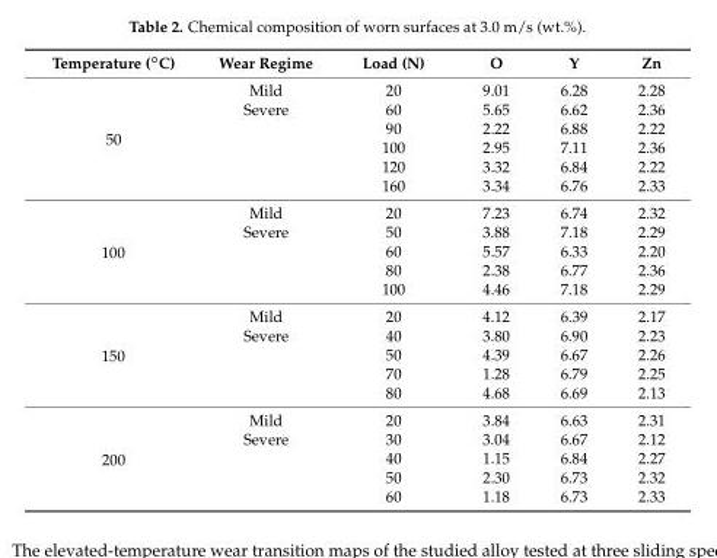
<table><thead><tr><td>Temperature (◦C)</td><td>Wear Regime</td><td>Load (N)</td><td>O</td><td>Y</td><td>Zn</td></tr></thead><tbody><tr><td rowspan="6">50</td><td>Mild</td><td>20</td><td>9.01</td><td>6.28</td><td>2.28</td></tr><tr><td>Severe</td><td>60</td><td>5.65</td><td>6.62</td><td>2.36</td></tr><tr><td></td><td>90</td><td>2.22</td><td>6.88</td><td>2.22</td></tr><tr><td></td><td>100</td><td>2.95</td><td>7.11</td><td>2.36</td></tr><tr><td></td><td>120</td><td>3.32</td><td>6.84</td><td>2.22</td></tr><tr><td></td><td>160</td><td>3.34</td><td>6.76</td><td>2.33</td></tr><tr><td rowspan="5">100</td><td>Mild</td><td>20</td><td>7.23</td><td>6.74</td><td>2.32</td></tr><tr><td>Severe</td><td>50</td><td>3.88</td><td>7.18</td><td>2.29</td></tr><tr><td></td><td>60</td><td>5.57</td><td>6.33</td><td>2.20</td></tr><tr><td></td><td>80</td><td>2.38</td><td>6.77</td><td>2.36</td></tr><tr><td></td><td>100</td><td>4.46</td><td>7.18</td><td>2.29</td></tr><tr><td rowspan="5">150</td><td>Mild</td><td>20</td><td>4.12</td><td>6.39</td><td>2.17</td></tr><tr><td>Severe</td><td>40</td><td>3.80</td><td>6.90</td><td>2.23</td></tr><tr><td></td><td>50</td><td>4.39</td><td>6.67</td><td>2.26</td></tr><tr><td></td><td>70</td><td>1.28</td><td>6.79</td><td>2.25</td></tr><tr><td></td><td>80</td><td>4.68</td><td>6.69</td><td>2.13</td></tr><tr><td rowspan="5">200</td><td>Mild</td><td>20</td><td>3.84</td><td>6.63</td><td>2.31</td></tr><tr><td>Severe</td><td>30</td><td>3.04</td><td>6.67</td><td>2.12</td></tr><tr><td></td><td>40</td><td>1.15</td><td>6.84</td><td>2.27</td></tr><tr><td></td><td>50</td><td>2.30</td><td>6.73</td><td>2.32</td></tr><tr><td></td><td>60</td><td>1.18</td><td>6.73</td><td>2.33</td></tr></tbody></table>